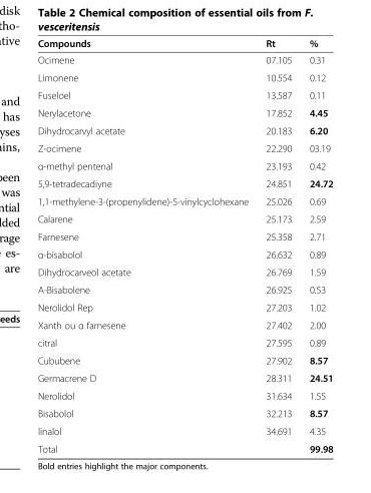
<table><thead><tr><td>Compounds</td><td>Rt</td><td>%</td></tr></thead><tbody><tr><td>Ocimene</td><td>07.105</td><td>0.31</td></tr><tr><td>Limonene</td><td>10.554</td><td>0.12</td></tr><tr><td>Fuseloel</td><td>13.587</td><td>0.11</td></tr><tr><td>Nerylacetone</td><td>17.852</td><td>4.45</td></tr><tr><td>Dihydrocarvyl acetate</td><td>20.183</td><td>6.20</td></tr><tr><td>Z-ocimene</td><td>22.290</td><td>03.19</td></tr><tr><td>α-methyl pentenal</td><td>23.193</td><td>0.42</td></tr><tr><td>5,9-tetradecadiyne</td><td>24.851</td><td>24.72</td></tr><tr><td>1,1-methylene-3-(propenylidene)-5-vinylcyclohexane</td><td>25.026</td><td>0.69</td></tr><tr><td>Calarene</td><td>25.173</td><td>2.59</td></tr><tr><td>Farnesene</td><td>25.358</td><td>2.71</td></tr><tr><td>α-bisabolol</td><td>26.632</td><td>0.89</td></tr><tr><td>Dihydrocarveol acetate</td><td>26.769</td><td>1.59</td></tr><tr><td>A-Bisabolene</td><td>26.925</td><td>0.53</td></tr><tr><td>Nerolidol Rep</td><td>27.203</td><td>1.02</td></tr><tr><td>Xanth ou α farnesene</td><td>27.402</td><td>2.00</td></tr><tr><td>citral</td><td>27.595</td><td>0.89</td></tr><tr><td>Cububene</td><td>27.902</td><td>8.57</td></tr><tr><td>Germacrene D</td><td>28.311</td><td>24.51</td></tr><tr><td>Nerolidol</td><td>31.634</td><td>1.55</td></tr><tr><td>Bisabolol</td><td>32.213</td><td>8.57</td></tr><tr><td>linalol</td><td>34.691</td><td>4.35</td></tr><tr><td>Total</td><td></td><td>99.98</td></tr></tbody></table>